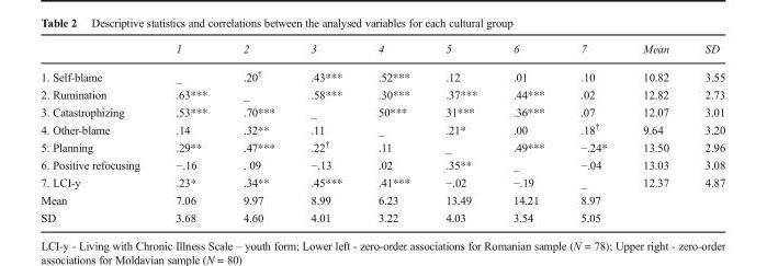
<table><thead><tr><td></td><td>1</td><td>2</td><td>3</td><td>4</td><td>5</td><td>6</td><td>7</td><td>Mean</td><td>SD</td></tr></thead><tbody><tr><td>1. Self-blame</td><td>_</td><td>.20<sup>†</sup></td><td>.43***</td><td>.52***</td><td>.12</td><td>.01</td><td>.10</td><td>10.82</td><td>3.55</td></tr><tr><td>2. Rumination</td><td>.63***</td><td>_</td><td>.58***</td><td>.30***</td><td>.37***</td><td>.44***</td><td>.02</td><td>12.82</td><td>2.73</td></tr><tr><td>3. Catastrophizing</td><td>.53***</td><td>.70***</td><td>_</td><td>50***</td><td>31***</td><td>.36***</td><td>.07</td><td>12.07</td><td>3.01</td></tr><tr><td>4. Other-blame</td><td>.14</td><td>.32**</td><td>.11</td><td>_</td><td>.21*</td><td>.00</td><td>.18<sup>†</sup></td><td>9.64</td><td>3.20</td></tr><tr><td>5. Planning</td><td>.29**</td><td>.47***</td><td>.22<sup>†</sup></td><td>.11</td><td>_</td><td>.49***</td><td>−.24*</td><td>13.50</td><td>2.96</td></tr><tr><td>6. Positive refocusing</td><td>−.16</td><td>. 09</td><td>−.13</td><td>.02</td><td>.35**</td><td>_</td><td>−.04</td><td>13.03</td><td>3.08</td></tr><tr><td>7. LCI-y</td><td>.23*</td><td>.34**</td><td>.45***</td><td>.41***</td><td>−.02</td><td>−.19</td><td>_</td><td>12.37</td><td>4.87</td></tr><tr><td>Mean</td><td>7.06</td><td>9.97</td><td>8.99</td><td>6.23</td><td>13.49</td><td>14.21</td><td>8.97</td><td></td><td></td></tr><tr><td>SD</td><td>3.68</td><td>4.60</td><td>4.01</td><td>3.22</td><td>4.03</td><td>3.54</td><td>5.05</td><td></td><td></td></tr></tbody></table>